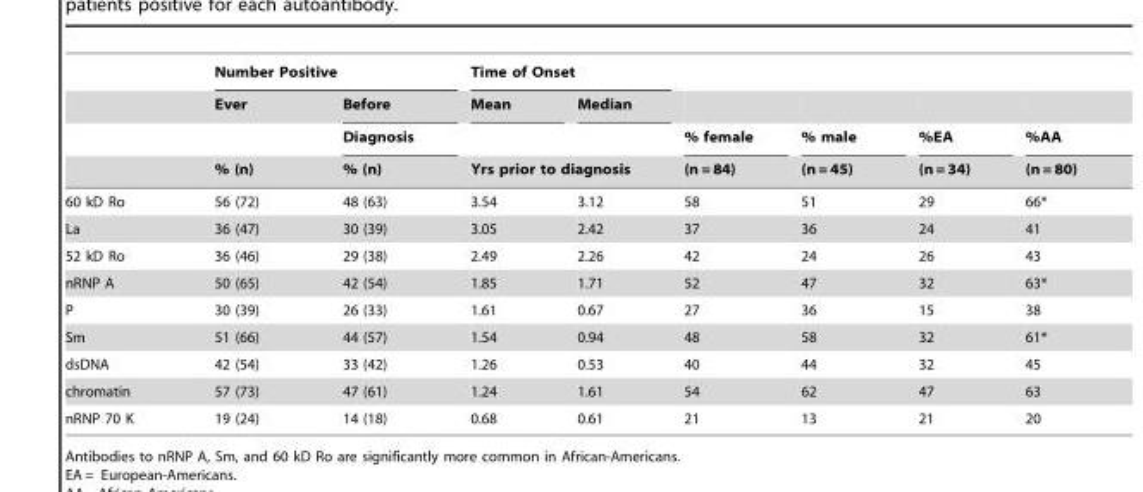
<table><thead><tr><td rowspan="4"></td><td colspan="2">Number Positive</td><td colspan="2">Time of Onset</td><td rowspan="4">% female (n = 84)</td><td rowspan="4">% male (n = 45)</td><td rowspan="4">%EA (n = 34)</td><td rowspan="4">%AA (n = 80)</td></tr><tr><td rowspan="3">Ever % (n)</td><td rowspan="3">Before Diagnosis % (n)</td><td rowspan="2">Mean</td><td rowspan="2">Median</td></tr><tr></tr><tr><td colspan="2">Yrs prior to diagnosis</td></tr></thead><tbody><tr><td>60 kD Ro</td><td>56 (72)</td><td>48 (63)</td><td>3.54</td><td>3.12</td><td>58</td><td>51</td><td>29</td><td>66*</td></tr><tr><td>La</td><td>36 (47)</td><td>30 (39)</td><td>3.05</td><td>2.42</td><td>37</td><td>36</td><td>24</td><td>41</td></tr><tr><td>52 kD Ro</td><td>36 (46)</td><td>29 (38)</td><td>2.49</td><td>2.26</td><td>42</td><td>24</td><td>26</td><td>43</td></tr><tr><td>nRNP A</td><td>50 (65)</td><td>42 (54)</td><td>1.85</td><td>1.71</td><td>52</td><td>47</td><td>32</td><td>63*</td></tr><tr><td>P</td><td>30 (39)</td><td>26 (33)</td><td>1.61</td><td>0.67</td><td>27</td><td>36</td><td>15</td><td>38</td></tr><tr><td>Sm</td><td>51 (66)</td><td>44 (57)</td><td>1.54</td><td>0.94</td><td>48</td><td>58</td><td>32</td><td>61*</td></tr><tr><td>dsDNA</td><td>42 (54)</td><td>33 (42)</td><td>1.26</td><td>0.53</td><td>40</td><td>44</td><td>32</td><td>45</td></tr><tr><td>chromatin</td><td>57 (73)</td><td>47 (61)</td><td>1.24</td><td>1.61</td><td>54</td><td>62</td><td>47</td><td>63</td></tr><tr><td>nRNP 70 K</td><td>19 (24)</td><td>14 (18)</td><td>0.68</td><td>0.61</td><td>21</td><td>13</td><td>21</td><td>20</td></tr></tbody></table>